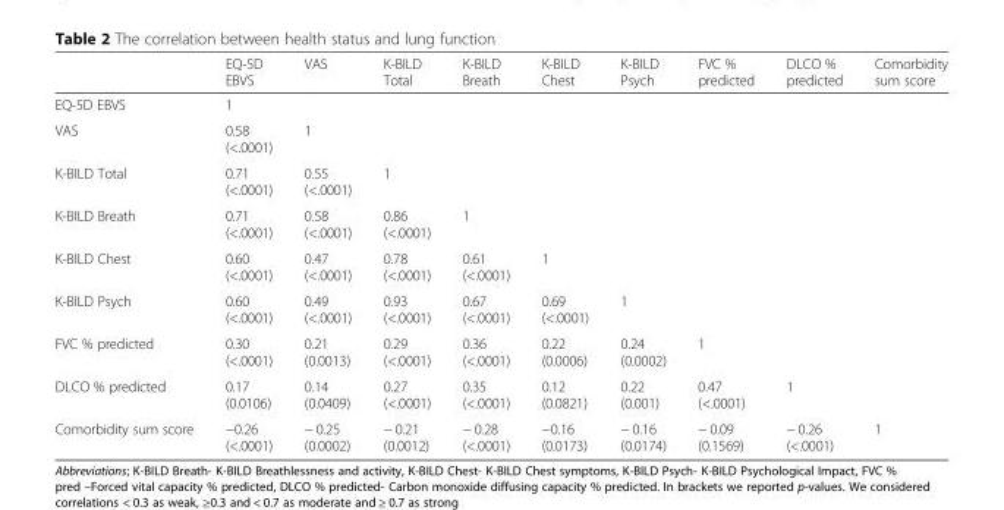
<table><thead><tr><td></td><td>EQ-5D EBVS</td><td>VAS</td><td>K-BILD Total</td><td>K-BILD Breath</td><td>K-BILD Chest</td><td>K-BILD Psych</td><td>FVC % predicted</td><td>DLCO % predicted</td><td>Comorbidity sum score</td></tr></thead><tbody><tr><td>EQ-5D EBVS</td><td>1</td><td colspan="8"></td></tr><tr><td>VAS</td><td>0.58 (&lt;.0001)</td><td>1</td><td colspan="7"></td></tr><tr><td>K-BILD Total</td><td>0.71 (&lt;.0001)</td><td>0.55 (&lt;.0001)</td><td>1</td><td colspan="6"></td></tr><tr><td>K-BILD Breath</td><td>0.71 (&lt;.0001)</td><td>0.58 (&lt;.0001)</td><td>0.86 (&lt;.0001)</td><td>1</td><td colspan="5"></td></tr><tr><td>K-BILD Chest</td><td>0.60 (&lt;.0001)</td><td>0.47 (&lt;.0001)</td><td>0.78 (&lt;.0001)</td><td>0.61 (&lt;.0001)</td><td>1</td><td colspan="4"></td></tr><tr><td>K-BILD Psych</td><td>0.60 (&lt;.0001)</td><td>0.49 (&lt;.0001)</td><td>0.93 (&lt;.0001)</td><td>0.67 (&lt;.0001)</td><td>0.69 (&lt;.0001)</td><td>1</td><td colspan="3"></td></tr><tr><td>FVC % predicted</td><td>0.30 (&lt;.0001)</td><td>0.21 (0.0013)</td><td>0.29 (&lt;.0001)</td><td>0.36 (&lt;.0001)</td><td>0.22 (0.0006)</td><td>0.24 (0.0002)</td><td>1</td><td colspan="2"></td></tr><tr><td>DLCO % predicted</td><td>0.17 (0.0106)</td><td>0.14 (0.0409)</td><td>0.27 (&lt;.0001)</td><td>0.35 (&lt;.0001)</td><td>0.12 (0.0821)</td><td>0.22 (0.001)</td><td>0.47 (&lt;.0001)</td><td colspan="2">1</td></tr><tr><td>Comorbidity sum score</td><td>−0.26 (&lt;.0001)</td><td>− 0.25 (0.0002)</td><td>− 0.21 (0.0012)</td><td>− 0.28 (&lt;.0001)</td><td>−0.16 (0.0173)</td><td>− 0.16 (0.0174)</td><td>− 0.09 (0.1569)</td><td>− 0.26 (&lt;.0001)</td><td>1</td></tr></tbody></table>